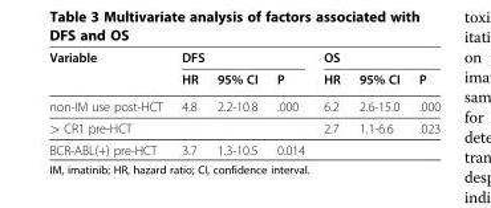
<table><thead><tr><td rowspan="2">Variable</td><td colspan="3">DFS</td><td colspan="3">OS</td></tr><tr><td>HR</td><td>95% CI</td><td>P</td><td>HR</td><td>95% CI</td><td>P</td></tr></thead><tbody><tr><td>non-IM use post-HCT</td><td>4.8</td><td>2.2-10.8</td><td>.000</td><td>6.2</td><td>2.6-15.0</td><td>.000</td></tr><tr><td>&gt; CR1 pre-HCT</td><td></td><td></td><td></td><td>2.7</td><td>1.1-6.6</td><td>.023</td></tr><tr><td>BCR-ABL(+) pre-HCT</td><td>3.7</td><td>1.3-10.5</td><td>0.014</td><td></td><td></td><td></td></tr></tbody></table>